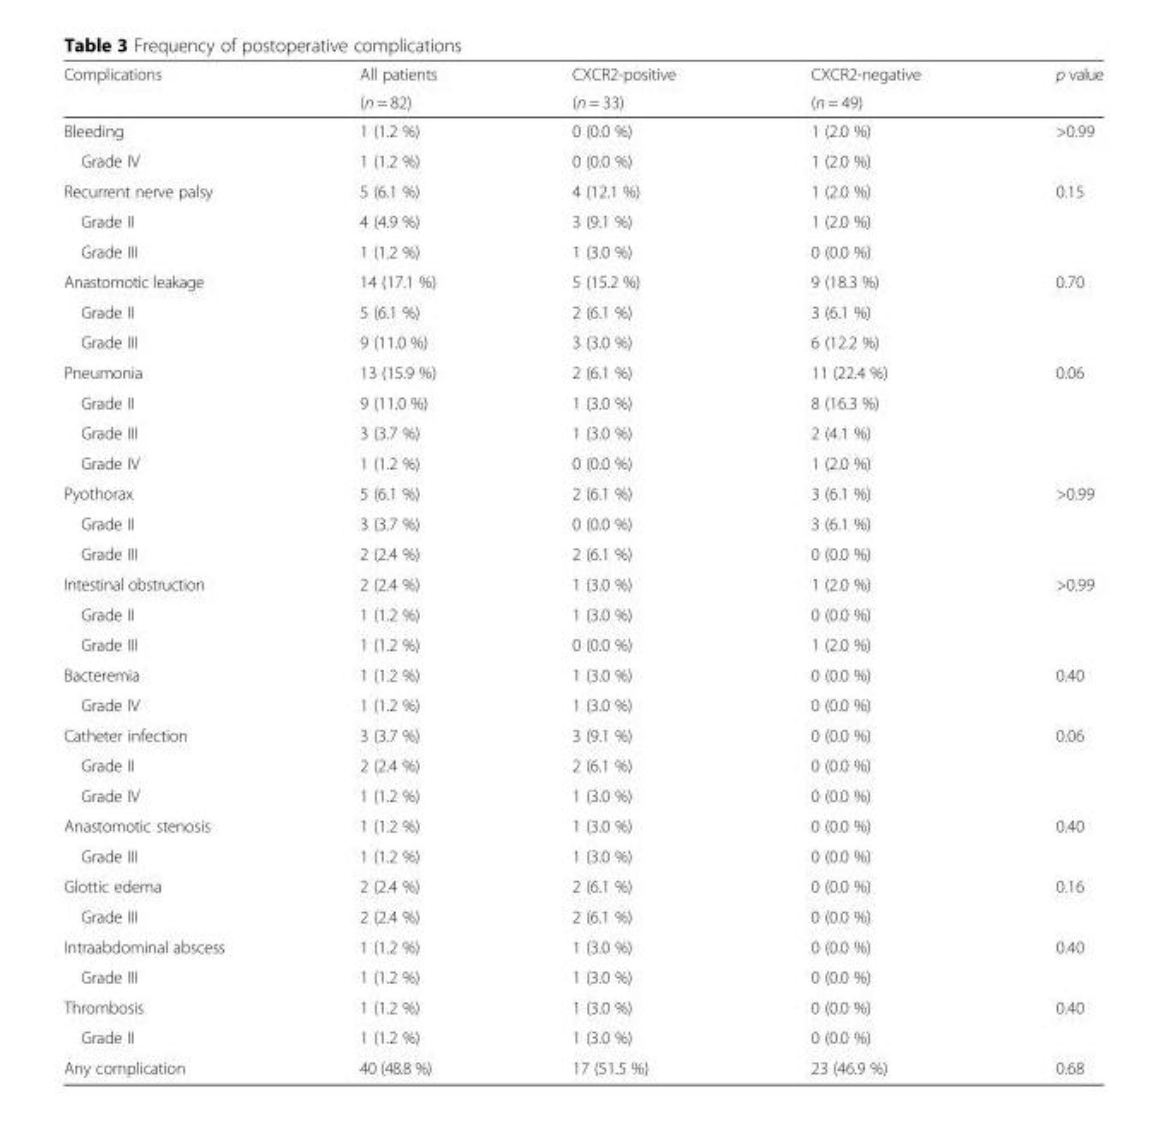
<table><thead><tr><td rowspan="2">Complications</td><td rowspan="2">All patients (n = 82)</td><td rowspan="2">CXCR2-positive (n = 33)</td><td rowspan="2">CXCR2-negative (n = 49)</td><td rowspan="2">p value</td></tr><tr></tr></thead><tbody><tr><td>Bleeding</td><td>1 (1.2 %)</td><td>0 (0.0 %)</td><td>1 (2.0 %)</td><td>&gt;0.99</td></tr><tr><td>Grade IV</td><td>1 (1.2 %)</td><td>0 (0.0 %)</td><td>1 (2.0 %)</td><td></td></tr><tr><td>Recurrent nerve palsy</td><td>5 (6.1 %)</td><td>4 (12.1 %)</td><td>1 (2.0 %)</td><td>0.15</td></tr><tr><td>Grade II</td><td>4 (4.9 %)</td><td>3 (9.1 %)</td><td>1 (2.0 %)</td><td></td></tr><tr><td>Grade III</td><td>1 (1.2 %)</td><td>1 (3.0 %)</td><td>0 (0.0 %)</td><td></td></tr><tr><td>Anastomotic leakage</td><td>14 (17.1 %)</td><td>5 (15.2 %)</td><td>9 (18.3 %)</td><td>0.70</td></tr><tr><td>Grade II</td><td>5 (6.1 %)</td><td>2 (6.1 %)</td><td>3 (6.1 %)</td><td></td></tr><tr><td>Grade III</td><td>9 (11.0 %)</td><td>3 (3.0 %)</td><td>6 (12.2 %)</td><td></td></tr><tr><td>Pneumonia</td><td>13 (15.9 %)</td><td>2 (6.1 %)</td><td>11 (22.4 %)</td><td>0.06</td></tr><tr><td>Grade II</td><td>9 (11.0 %)</td><td>1 (3.0 %)</td><td>8 (16.3 %)</td><td></td></tr><tr><td>Grade III</td><td>3 (3.7 %)</td><td>1 (3.0 %)</td><td>2 (4.1 %)</td><td></td></tr><tr><td>Grade IV</td><td>1 (1.2 %)</td><td>0 (0.0 %)</td><td>1 (2.0 %)</td><td></td></tr><tr><td>Pyothorax</td><td>5 (6.1 %)</td><td>2 (6.1 %)</td><td>3 (6.1 %)</td><td>&gt;0.99</td></tr><tr><td>Grade II</td><td>3 (3.7 %)</td><td>0 (0.0 %)</td><td>3 (6.1 %)</td><td></td></tr><tr><td>Grade III</td><td>2 (2.4 %)</td><td>2 (6.1 %)</td><td>0 (0.0 %)</td><td></td></tr><tr><td>Intestinal obstruction</td><td>2 (2.4 %)</td><td>1 (3.0 %)</td><td>1 (2.0 %)</td><td>&gt;0.99</td></tr><tr><td>Grade II</td><td>1 (1.2 %)</td><td>1 (3.0 %)</td><td>0 (0.0 %)</td><td></td></tr><tr><td>Grade III</td><td>1 (1.2 %)</td><td>0 (0.0 %)</td><td>1 (2.0 %)</td><td></td></tr><tr><td>Bacteremia</td><td>1 (1.2 %)</td><td>1 (3.0 %)</td><td>0 (0.0 %)</td><td>0.40</td></tr><tr><td>Grade IV</td><td>1 (1.2 %)</td><td>1 (3.0 %)</td><td>0 (0.0 %)</td><td></td></tr><tr><td>Catheter infection</td><td>3 (3.7 %)</td><td>3 (9.1 %)</td><td>0 (0.0 %)</td><td>0.06</td></tr><tr><td>Grade II</td><td>2 (2.4 %)</td><td>2 (6.1 %)</td><td>0 (0.0 %)</td><td></td></tr><tr><td>Grade IV</td><td>1 (1.2 %)</td><td>1 (3.0 %)</td><td>0 (0.0 %)</td><td></td></tr><tr><td>Anastomotic stenosis</td><td>1 (1.2 %)</td><td>1 (3.0 %)</td><td>0 (0.0 %)</td><td>0.40</td></tr><tr><td>Grade III</td><td>1 (1.2 %)</td><td>1 (3.0 %)</td><td>0 (0.0 %)</td><td></td></tr><tr><td>Glottic edema</td><td>2 (2.4 %)</td><td>2 (6.1 %)</td><td>0 (0.0 %)</td><td>0.16</td></tr><tr><td>Grade III</td><td>2 (2.4 %)</td><td>2 (6.1 %)</td><td>0 (0.0 %)</td><td></td></tr><tr><td>Intraabdominal abscess</td><td>1 (1.2 %)</td><td>1 (3.0 %)</td><td>0 (0.0 %)</td><td>0.40</td></tr><tr><td>Grade III</td><td>1 (1.2 %)</td><td>1 (3.0 %)</td><td>0 (0.0 %)</td><td></td></tr><tr><td>Thrombosis</td><td>1 (1.2 %)</td><td>1 (3.0 %)</td><td>0 (0.0 %)</td><td>0.40</td></tr><tr><td>Grade II</td><td>1 (1.2 %)</td><td>1 (3.0 %)</td><td>0 (0.0 %)</td><td></td></tr><tr><td>Any complication</td><td>40 (48.8 %)</td><td>17 (51.5 %)</td><td>23 (46.9 %)</td><td>0.68</td></tr></tbody></table>